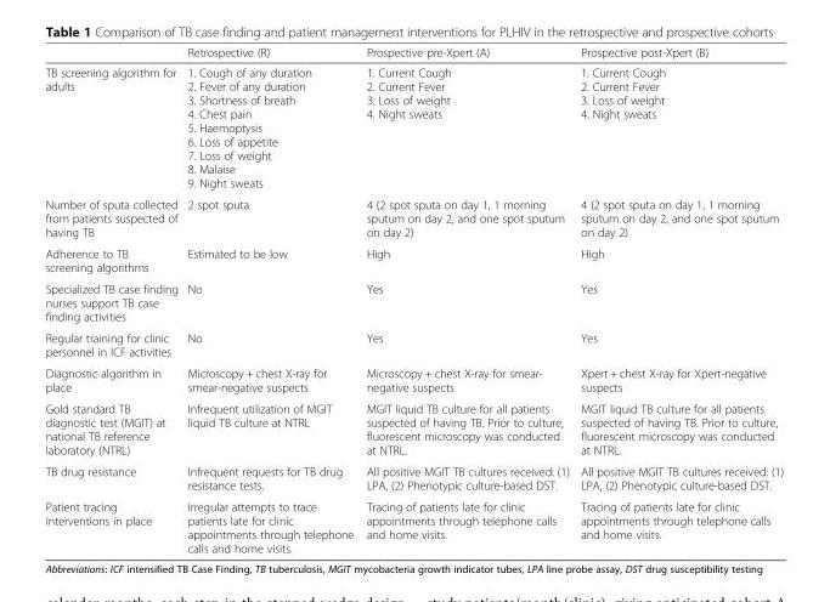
<table><thead><tr><td></td><td>Retrospective (R)</td><td>Prospective pre-Xpert (A)</td><td>Prospective post-Xpert (B)</td></tr></thead><tbody><tr><td>TB screening algorithm for adults</td><td>1. Cough of any duration 2. Fever of any duration 3. Shortness of breath 4. Chest pain 5. Haemoptysis 6. Loss of appetite 7. Loss of weight 8. Malaise 9. Night sweats</td><td>1. Current Cough 2. Current Fever 3. Loss of weight 4. Night sweats</td><td>1. Current Cough 2. Current Fever 3. Loss of weight 4. Night sweats</td></tr><tr><td>Number of sputa collected from patients suspected of having TB</td><td>2 spot sputa</td><td>4 (2 spot sputa on day 1, 1 morning sputum on day 2, and one spot sputum on day 2)</td><td>4 (2 spot sputa on day 1, 1 morning sputum on day 2, and one spot sputum on day 2)</td></tr><tr><td>Adherence to TB screening algorithms</td><td>Estimated to be low</td><td>High</td><td>High</td></tr><tr><td>Specialized TB case finding nurses support TB case finding activities</td><td>No</td><td>Yes</td><td>Yes</td></tr><tr><td>Regular training for clinic personnel in ICF activities</td><td>No</td><td>Yes</td><td>Yes</td></tr><tr><td>Diagnostic algorithm in place</td><td>Microscopy + chest X-ray for smear-negative suspects</td><td>Microscopy + chest X-ray for smear- negative suspects</td><td>Xpert + chest X-ray for Xpert-negative suspects</td></tr><tr><td>Gold standard TB diagnostic test (MGIT) at national TB reference laboratory (NTRL)</td><td>Infrequent utilization of MGIT liquid TB culture at NTRL</td><td>MGIT liquid TB culture for all patients suspected of having TB. Prior to culture, fluorescent microscopy was conducted at NTRL.</td><td>MGIT liquid TB culture for all patients suspected of having TB. Prior to culture, fluorescent microscopy was conducted at NTRL.</td></tr><tr><td>TB drug resistance</td><td>Infrequent requests for TB drug resistance tests.</td><td>All positive MGIT TB cultures received: (1) LPA, (2) Phenotypic culture-based DST.</td><td>All positive MGIT TB cultures received: (1) LPA, (2) Phenotypic culture-based DST.</td></tr><tr><td>Patient tracing interventions in place</td><td>Irregular attempts to trace patients late for clinic appointments through telephone calls and home visits.</td><td>Tracing of patients late for clinic appointments through telephone calls and home visits.</td><td>Tracing of patients late for clinic appointments through telephone calls and home visits.</td></tr></tbody></table>